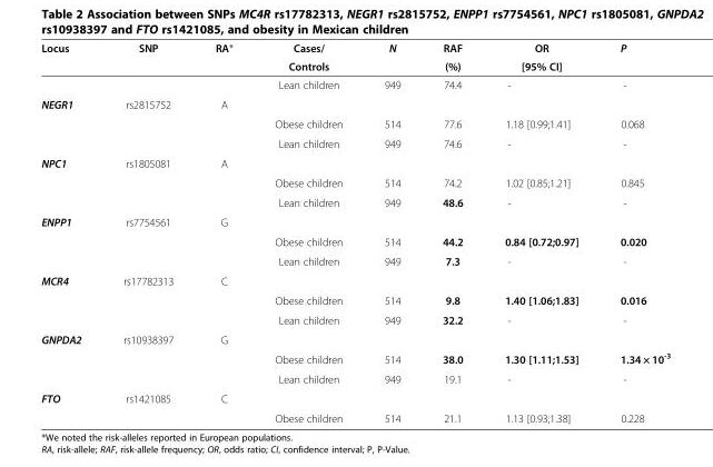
<table><thead><tr><td rowspan="2">Locus</td><td rowspan="2">SNP</td><td rowspan="2">RA*</td><td rowspan="2">Cases/ Controls</td><td rowspan="2">N</td><td rowspan="2">RAF (%)</td><td rowspan="2">OR [95% CI]</td><td rowspan="2">P</td></tr><tr></tr></thead><tbody><tr><td></td><td></td><td></td><td>Lean children</td><td>949</td><td>74.4</td><td>-</td><td>-</td></tr><tr><td rowspan="3">NEGR1</td><td>rs2815752</td><td>A</td><td></td><td></td><td></td><td></td><td></td></tr><tr><td></td><td></td><td>Obese children</td><td>514</td><td>77.6</td><td>1.18 [0.99;1.41]</td><td>0.068</td></tr><tr><td></td><td></td><td>Lean children</td><td>949</td><td>74.6</td><td>-</td><td>-</td></tr><tr><td rowspan="3">NPC1</td><td>rs1805081</td><td>A</td><td></td><td></td><td></td><td></td><td></td></tr><tr><td></td><td></td><td>Obese children</td><td>514</td><td>74.2</td><td>1.02 [0.85;1.21]</td><td>0.845</td></tr><tr><td></td><td></td><td>Lean children</td><td>949</td><td>48.6</td><td>-</td><td>-</td></tr><tr><td rowspan="3">ENPP1</td><td>rs7754561</td><td>G</td><td></td><td></td><td></td><td></td><td></td></tr><tr><td></td><td></td><td>Obese children</td><td>514</td><td>44.2</td><td>0.84 [0.72;0.97]</td><td>0.020</td></tr><tr><td></td><td></td><td>Lean children</td><td>949</td><td>7.3</td><td>-</td><td>-</td></tr><tr><td rowspan="3">MCR4</td><td>rs17782313</td><td>C</td><td></td><td></td><td></td><td></td><td></td></tr><tr><td></td><td></td><td>Obese children</td><td>514</td><td>9.8</td><td>1.40 [1.06;1.83]</td><td>0.016</td></tr><tr><td></td><td></td><td>Lean children</td><td>949</td><td>32.2</td><td>-</td><td>-</td></tr><tr><td rowspan="3">GNPDA2</td><td>rs10938397</td><td>G</td><td></td><td></td><td></td><td></td><td></td></tr><tr><td></td><td></td><td>Obese children</td><td>514</td><td>38.0</td><td>1.30 [1.11;1.53]</td><td>1.34 × 10<sup>-3</sup></td></tr><tr><td></td><td></td><td>Lean children</td><td>949</td><td>19.1</td><td>-</td><td>-</td></tr><tr><td rowspan="2">FTO</td><td>rs1421085</td><td>C</td><td></td><td></td><td></td><td></td><td></td></tr><tr><td></td><td></td><td>Obese children</td><td>514</td><td>21.1</td><td>1.13 [0.93;1.38]</td><td>0.228</td></tr></tbody></table>